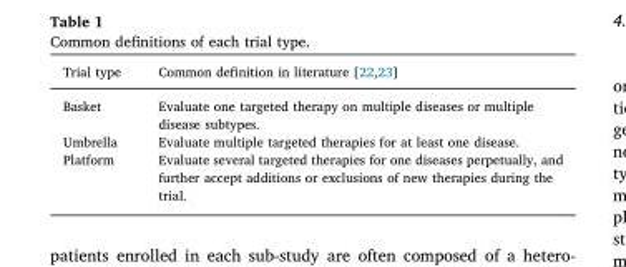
<table><thead><tr><td>Trial type</td><td>Common definition in literature [22,23]</td></tr></thead><tbody><tr><td>Basket</td><td>Evaluate one targeted therapy on multiple diseases or multiple disease subtypes.</td></tr><tr><td>Umbrella</td><td>Evaluate multiple targeted therapies for at least one disease.</td></tr><tr><td>Platform</td><td>Evaluate several targeted therapies for one diseases perpetually, and further accept additions or exclusions of new therapies during the trial.</td></tr></tbody></table>